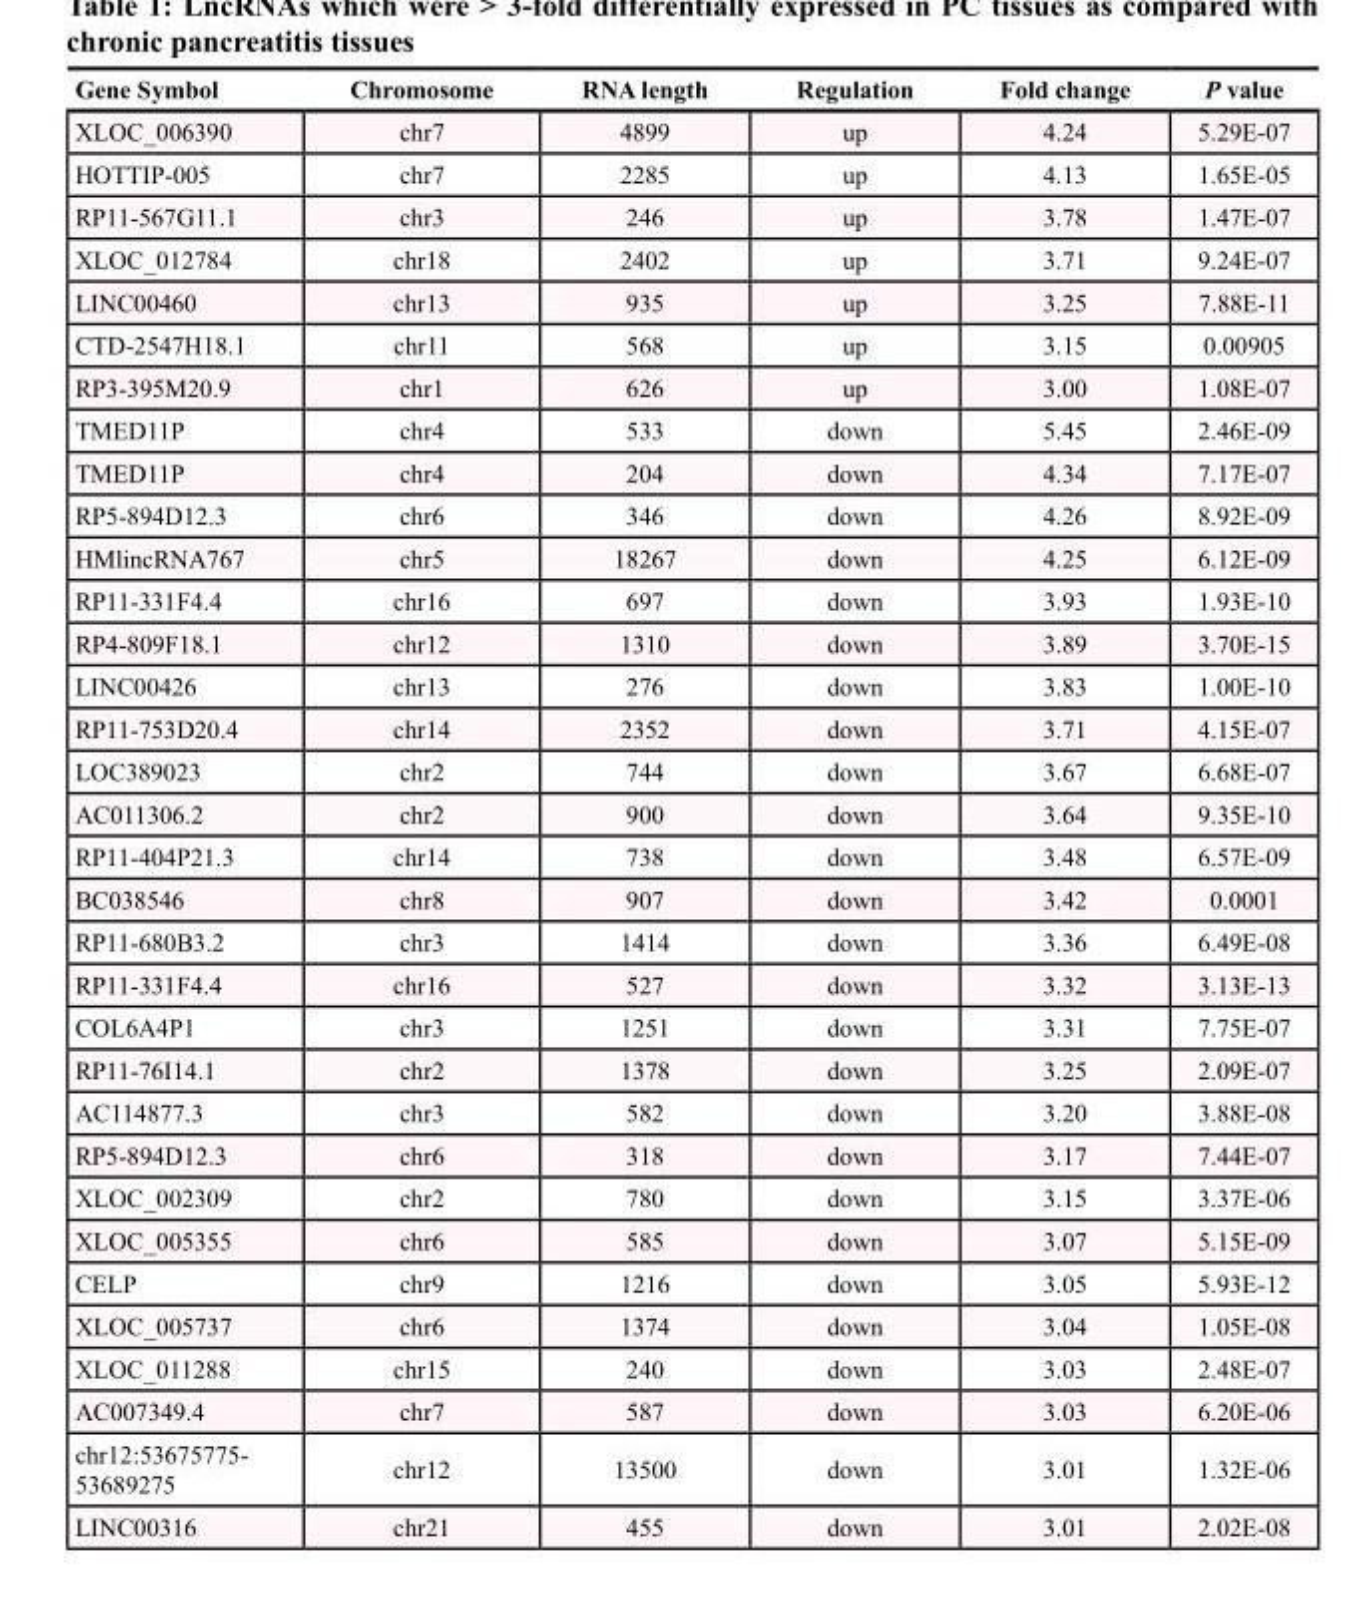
<table><thead><tr><td>Gene Symbol</td><td>Chromosome</td><td>RNA length</td><td>Regulation</td><td>Fold change</td><td>P value</td></tr></thead><tbody><tr><td>XLOC_006390</td><td>chr7</td><td>4899</td><td>up</td><td>4.24</td><td>5.29E-07</td></tr><tr><td>HOTTIP-005</td><td>chr7</td><td>2285</td><td>up</td><td>4.13</td><td>1.65E-05</td></tr><tr><td>RP11-567G11.1</td><td>chr3</td><td>246</td><td>up</td><td>3.78</td><td>1.47E-07</td></tr><tr><td>XLOC_012784</td><td>chr18</td><td>2402</td><td>up</td><td>3.71</td><td>9.24E-07</td></tr><tr><td>LINC00460</td><td>chr13</td><td>935</td><td>up</td><td>3.25</td><td>7.88E-11</td></tr><tr><td>CTD-2547H18.1</td><td>chr11</td><td>568</td><td>up</td><td>3.15</td><td>0.00905</td></tr><tr><td>RP3-395M20.9</td><td>chr1</td><td>626</td><td>up</td><td>3.00</td><td>1.08E-07</td></tr><tr><td>TMED11P</td><td>chr4</td><td>533</td><td>down</td><td>5.45</td><td>2.46E-09</td></tr><tr><td>TMED11P</td><td>chr4</td><td>204</td><td>down</td><td>4.34</td><td>7.17E-07</td></tr><tr><td>RP5-894D12.3</td><td>chr6</td><td>346</td><td>down</td><td>4.26</td><td>8.92E-09</td></tr><tr><td>HMlincRNA767</td><td>chr5</td><td>18267</td><td>down</td><td>4.25</td><td>6.12E-09</td></tr><tr><td>RP11-331F4.4</td><td>chr16</td><td>697</td><td>down</td><td>3.93</td><td>1.93E-10</td></tr><tr><td>RP4-809F18.1</td><td>chr12</td><td>1310</td><td>down</td><td>3.89</td><td>3.70E-15</td></tr><tr><td>LINC00426</td><td>chr13</td><td>276</td><td>down</td><td>3.83</td><td>1.00E-10</td></tr><tr><td>RP11-753D20.4</td><td>chr14</td><td>2352</td><td>down</td><td>3.71</td><td>4.15E-07</td></tr><tr><td>LOC389023</td><td>chr2</td><td>744</td><td>down</td><td>3.67</td><td>6.68E-07</td></tr><tr><td>AC011306.2</td><td>chr2</td><td>900</td><td>down</td><td>3.64</td><td>9.35E-10</td></tr><tr><td>RP11-404P21.3</td><td>chr14</td><td>738</td><td>down</td><td>3.48</td><td>6.57E-09</td></tr><tr><td>BC038546</td><td>chr8</td><td>907</td><td>down</td><td>3.42</td><td>0.0001</td></tr><tr><td>RP11-680B3.2</td><td>chr3</td><td>1414</td><td>down</td><td>3.36</td><td>6.49E-08</td></tr><tr><td>RP11-331F4.4</td><td>chr16</td><td>527</td><td>down</td><td>3.32</td><td>3.13E-13</td></tr><tr><td>COL6A4P1</td><td>chr3</td><td>1251</td><td>down</td><td>3.31</td><td>7.75E-07</td></tr><tr><td>RP11-76I14.1</td><td>chr2</td><td>1378</td><td>down</td><td>3.25</td><td>2.09E-07</td></tr><tr><td>AC114877.3</td><td>chr3</td><td>582</td><td>down</td><td>3.20</td><td>3.88E-08</td></tr><tr><td>RP5-894D12.3</td><td>chr6</td><td>318</td><td>down</td><td>3.17</td><td>7.44E-07</td></tr><tr><td>XLOC_002309</td><td>chr2</td><td>780</td><td>down</td><td>3.15</td><td>3.37E-06</td></tr><tr><td>XLOC_005355</td><td>chr6</td><td>585</td><td>down</td><td>3.07</td><td>5.15E-09</td></tr><tr><td>CELP</td><td>chr9</td><td>1216</td><td>down</td><td>3.05</td><td>5.93E-12</td></tr><tr><td>XLOC_005737</td><td>chr6</td><td>1374</td><td>down</td><td>3.04</td><td>1.05E-08</td></tr><tr><td>XLOC_011288</td><td>chr15</td><td>240</td><td>down</td><td>3.03</td><td>2.48E-07</td></tr><tr><td>AC007349.4</td><td>chr7</td><td>587</td><td>down</td><td>3.03</td><td>6.20E-06</td></tr><tr><td>chr12:53675775- 53689275</td><td>chr12</td><td>13500</td><td>down</td><td>3.01</td><td>1.32E-06</td></tr><tr><td>LINC00316</td><td>chr21</td><td>455</td><td>down</td><td>3.01</td><td>2.02E-08</td></tr></tbody></table>